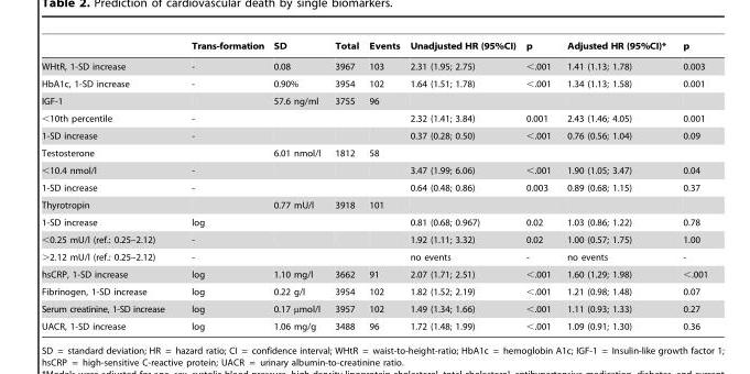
<table><thead><tr><td></td><td>Trans-formation</td><td>SD</td><td>Total</td><td>Events</td><td>Unadjusted HR (95%CI)</td><td>p</td><td>Adjusted HR (95%CI)*</td><td>p</td></tr></thead><tbody><tr><td>WHtR, 1-SD increase</td><td>-</td><td>0.08</td><td>3967</td><td>103</td><td>2.31 (1.95; 2.75)</td><td>&lt;.001</td><td>1.41 (1.13; 1.78)</td><td>0.003</td></tr><tr><td>HbA1c, 1-SD increase</td><td>-</td><td>0.90%</td><td>3954</td><td>102</td><td>1.64 (1.51; 1.78)</td><td>&lt;.001</td><td>1.34 (1.13; 1.58)</td><td>0.001</td></tr><tr><td>IGF-1</td><td></td><td>57.6 ng/ml</td><td>3755</td><td>96</td><td></td><td></td><td></td><td></td></tr><tr><td>&lt;10th percentile</td><td>-</td><td></td><td></td><td></td><td>2.32 (1.41; 3.84)</td><td>0.001</td><td>2.43 (1.46; 4.05)</td><td>0.001</td></tr><tr><td>1-SD increase</td><td>-</td><td></td><td></td><td></td><td>0.37 (0.28; 0.50)</td><td>&lt;.001</td><td>0.76 (0.56; 1.04)</td><td>0.09</td></tr><tr><td>Testosterone</td><td></td><td>6.01 nmol/l</td><td>1812</td><td>58</td><td></td><td></td><td></td><td></td></tr><tr><td>&lt;10.4 nmol/l</td><td>-</td><td></td><td></td><td></td><td>3.47 (1.99; 6.06)</td><td>&lt;.001</td><td>1.90 (1.05; 3.47)</td><td>0.04</td></tr><tr><td>1-SD increase</td><td>-</td><td></td><td></td><td></td><td>0.64 (0.48; 0.86)</td><td>0.003</td><td>0.89 (0.68; 1.15)</td><td>0.37</td></tr><tr><td>Thyrotropin</td><td></td><td>0.77 mU/l</td><td>3918</td><td>101</td><td></td><td></td><td></td><td></td></tr><tr><td>1-SD increase</td><td>log</td><td></td><td></td><td></td><td>0.81 (0.68; 0.967)</td><td>0.02</td><td>1.03 (0.86; 1.22)</td><td>0.78</td></tr><tr><td>&lt;0.25 mU/l (ref.: 0.25–2.12)</td><td>-</td><td></td><td></td><td></td><td>1.92 (1.11; 3.32)</td><td>0.02</td><td>1.00 (0.57; 1.75)</td><td>1.00</td></tr><tr><td>&gt;2.12 mU/l (ref.: 0.25–2.12)</td><td>-</td><td></td><td></td><td></td><td>no events</td><td>-</td><td>no events</td><td>-</td></tr><tr><td>hsCRP, 1-SD increase</td><td>log</td><td>1.10 mg/l</td><td>3662</td><td>91</td><td>2.07 (1.71; 2.51)</td><td>&lt;.001</td><td>1.60 (1.29; 1.98)</td><td>&lt;.001</td></tr><tr><td>Fibrinogen, 1-SD increase</td><td>log</td><td>0.22 g/l</td><td>3954</td><td>102</td><td>1.82 (1.52; 2.19)</td><td>&lt;.001</td><td>1.21 (0.98; 1.48)</td><td>0.07</td></tr><tr><td>Serum creatinine, 1-SD increase</td><td>log</td><td>0.17 µmol/l</td><td>3957</td><td>102</td><td>1.49 (1.34; 1.66)</td><td>&lt;.001</td><td>1.11 (0.93; 1.33)</td><td>0.27</td></tr><tr><td>UACR, 1-SD increase</td><td>log</td><td>1.06 mg/g</td><td>3488</td><td>96</td><td>1.72 (1.48; 1.99)</td><td>&lt;.001</td><td>1.09 (0.91; 1.30)</td><td>0.36</td></tr></tbody></table>